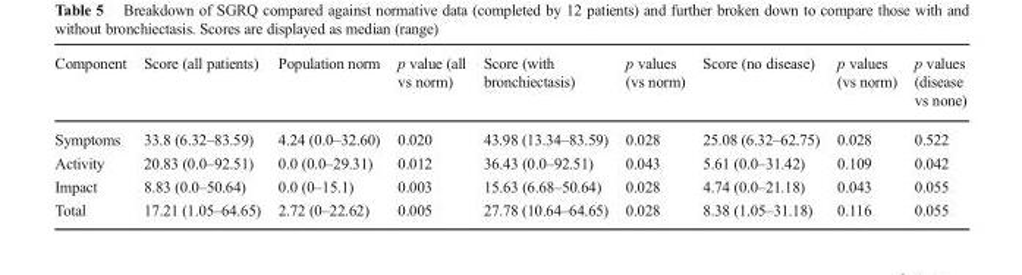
<table><thead><tr><td>Component</td><td>Score (all patients)</td><td>Population norm</td><td>p value (all vs norm)</td><td>Score (with bronchiectasis)</td><td>p values (vs norm)</td><td>Score (no disease)</td><td>p values (vs norm)</td><td>p values (disease vs none)</td></tr></thead><tbody><tr><td>Symptoms</td><td>33.8 (6.32–83.59)</td><td>4.24 (0.0–32.60)</td><td>0.020</td><td>43.98 (13.34–83.59)</td><td>0.028</td><td>25.08 (6.32–62.75)</td><td>0.028</td><td>0.522</td></tr><tr><td>Activity</td><td>20.83 (0.0–92.51)</td><td>0.0 (0.0–29.31)</td><td>0.012</td><td>36.43 (0.0–92.51)</td><td>0.043</td><td>5.61 (0.0–31.42)</td><td>0.109</td><td>0.042</td></tr><tr><td>Impact</td><td>8.83 (0.0–50.64)</td><td>0.0 (0–15.1)</td><td>0.003</td><td>15.63 (6.68–50.64)</td><td>0.028</td><td>4.74 (0.0–21.18)</td><td>0.043</td><td>0.055</td></tr><tr><td>Total</td><td>17.21 (1.05–64.65)</td><td>2.72 (0–22.62)</td><td>0.005</td><td>27.78 (10.64–64.65)</td><td>0.028</td><td>8.38 (1.05–31.18)</td><td>0.116</td><td>0.055</td></tr></tbody></table>